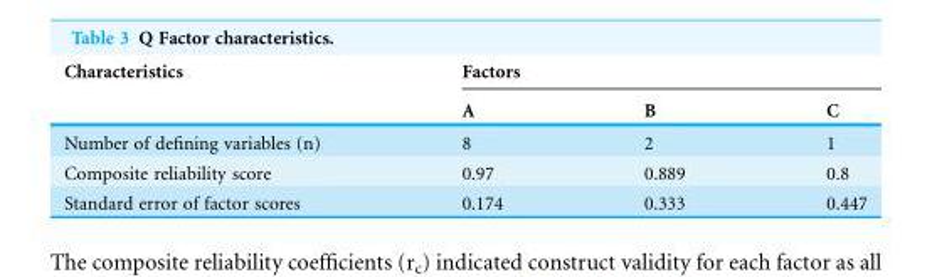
<table><thead><tr><td rowspan="2">Characteristics</td><td colspan="3">Factors</td></tr><tr><td>A</td><td>B</td><td>C</td></tr></thead><tbody><tr><td>Number of defining variables (n)</td><td>8</td><td>2</td><td>1</td></tr><tr><td>Composite reliability score</td><td>0.97</td><td>0.889</td><td>0.8</td></tr><tr><td>Standard error of factor scores</td><td>0.174</td><td>0.333</td><td>0.447</td></tr></tbody></table>